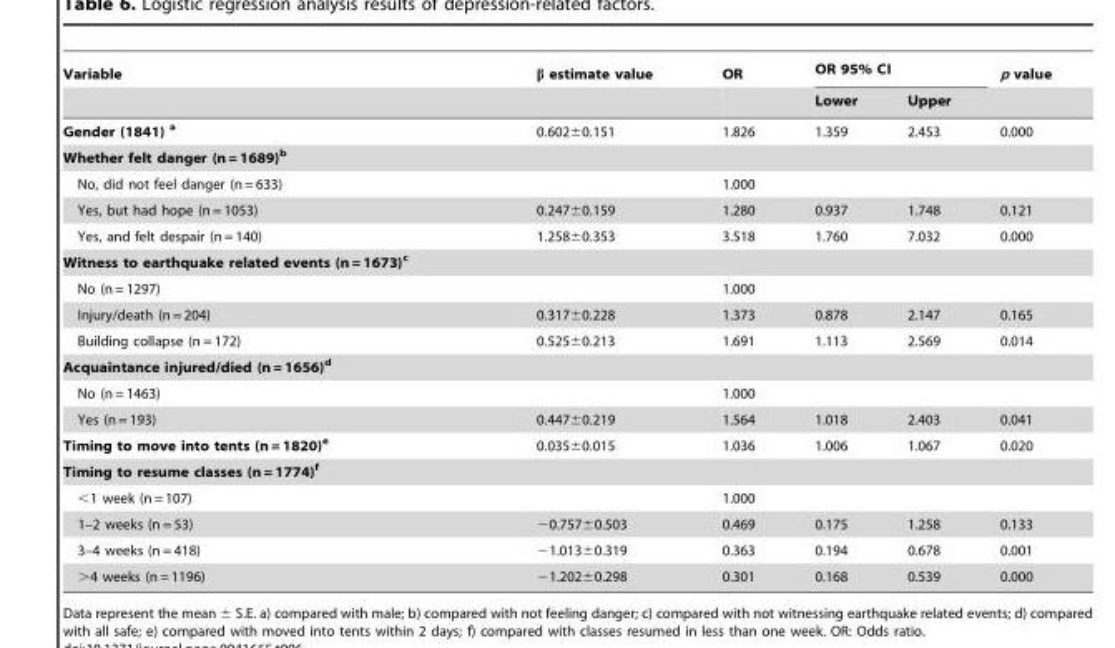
<table><thead><tr><td rowspan="2">Variable</td><td rowspan="2">β estimate value</td><td rowspan="2">OR</td><td colspan="2">OR 95% CI</td><td rowspan="2">p value</td></tr><tr><td>Lower</td><td>Upper</td></tr></thead><tbody><tr><td>Gender (1841) <sup>a</sup></td><td>0.602±0.151</td><td>1.826</td><td>1.359</td><td>2.453</td><td>0.000</td></tr><tr><td colspan="6">Whether felt danger (n = 1689)<sup>b</sup></td></tr><tr><td>No, did not feel danger (n = 633)</td><td></td><td>1.000</td><td></td><td></td><td></td></tr><tr><td>Yes, but had hope (n = 1053)</td><td>0.247±0.159</td><td>1.280</td><td>0.937</td><td>1.748</td><td>0.121</td></tr><tr><td>Yes, and felt despair (n = 140)</td><td>1.258±0.353</td><td>3.518</td><td>1.760</td><td>7.032</td><td>0.000</td></tr><tr><td colspan="6">Witness to earthquake related events (n = 1673)<sup>c</sup></td></tr><tr><td>No (n = 1297)</td><td></td><td>1.000</td><td></td><td></td><td></td></tr><tr><td>Injury/death (n = 204)</td><td>0.317±0.228</td><td>1.373</td><td>0.878</td><td>2.147</td><td>0.165</td></tr><tr><td>Building collapse (n = 172)</td><td>0.525±0.213</td><td>1.691</td><td>1.113</td><td>2.569</td><td>0.014</td></tr><tr><td colspan="6">Acquaintance injured/died (n = 1656)<sup>d</sup></td></tr><tr><td>No (n = 1463)</td><td></td><td>1.000</td><td></td><td></td><td></td></tr><tr><td>Yes (n = 193)</td><td>0.447±0.219</td><td>1.564</td><td>1.018</td><td>2.403</td><td>0.041</td></tr><tr><td>Timing to move into tents (n = 1820)<sup>e</sup></td><td>0.035±0.015</td><td>1.036</td><td>1.006</td><td>1.067</td><td>0.020</td></tr><tr><td colspan="6">Timing to resume classes (n = 1774)<sup>f</sup></td></tr><tr><td>&lt;1 week (n = 107)</td><td></td><td>1.000</td><td></td><td></td><td></td></tr><tr><td>1–2 weeks (n = 53)</td><td>−0.757±0.503</td><td>0.469</td><td>0.175</td><td>1.258</td><td>0.133</td></tr><tr><td>3–4 weeks (n = 418)</td><td>−1.013±0.319</td><td>0.363</td><td>0.194</td><td>0.678</td><td>0.001</td></tr><tr><td>&gt;4 weeks (n = 1196)</td><td>−1.202±0.298</td><td>0.301</td><td>0.168</td><td>0.539</td><td>0.000</td></tr></tbody></table>